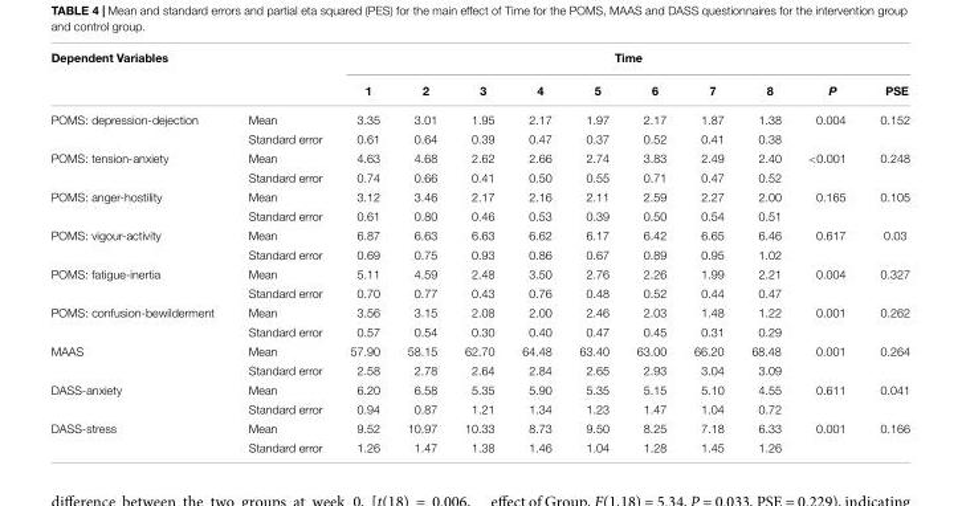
<table><thead><tr><td colspan="2">Dependent Variables</td><td colspan="10">Time</td></tr><tr><td></td><td></td><td>1</td><td>2</td><td>3</td><td>4</td><td>5</td><td>6</td><td>7</td><td>8</td><td>P</td><td>PSE</td></tr></thead><tbody><tr><td rowspan="2">POMS: depression-dejection</td><td>Mean</td><td>3.35</td><td>3.01</td><td>1.95</td><td>2.17</td><td>1.97</td><td>2.17</td><td>1.87</td><td>1.38</td><td>0.004</td><td>0.152</td></tr><tr><td>Standard error</td><td>0.61</td><td>0.64</td><td>0.39</td><td>0.47</td><td>0.37</td><td>0.52</td><td>0.41</td><td>0.38</td><td></td><td></td></tr><tr><td rowspan="2">POMS: tension-anxiety</td><td>Mean</td><td>4.63</td><td>4.68</td><td>2.62</td><td>2.66</td><td>2.74</td><td>3.83</td><td>2.49</td><td>2.40</td><td>&lt;0.001</td><td>0.248</td></tr><tr><td>Standard error</td><td>0.74</td><td>0.66</td><td>0.41</td><td>0.50</td><td>0.55</td><td>0.71</td><td>0.47</td><td>0.52</td><td></td><td></td></tr><tr><td rowspan="2">POMS: anger-hostility</td><td>Mean</td><td>3.12</td><td>3.46</td><td>2.17</td><td>2.16</td><td>2.11</td><td>2.59</td><td>2.27</td><td>2.00</td><td>0.165</td><td>0.105</td></tr><tr><td>Standard error</td><td>0.61</td><td>0.80</td><td>0.46</td><td>0.53</td><td>0.39</td><td>0.50</td><td>0.54</td><td>0.51</td><td></td><td></td></tr><tr><td rowspan="2">POMS: vigour-activity</td><td>Mean</td><td>6.87</td><td>6.63</td><td>6.63</td><td>6.62</td><td>6.17</td><td>6.42</td><td>6.65</td><td>6.46</td><td>0.617</td><td>0.03</td></tr><tr><td>Standard error</td><td>0.69</td><td>0.75</td><td>0.93</td><td>0.86</td><td>0.67</td><td>0.89</td><td>0.95</td><td>1.02</td><td></td><td></td></tr><tr><td rowspan="2">POMS: fatigue-inertia</td><td>Mean</td><td>5.11</td><td>4.59</td><td>2.48</td><td>3.50</td><td>2.76</td><td>2.26</td><td>1.99</td><td>2.21</td><td>0.004</td><td>0.327</td></tr><tr><td>Standard error</td><td>0.70</td><td>0.77</td><td>0.43</td><td>0.76</td><td>0.48</td><td>0.52</td><td>0.44</td><td>0.47</td><td></td><td></td></tr><tr><td rowspan="2">POMS: confusion-bewilderment</td><td>Mean</td><td>3.56</td><td>3.15</td><td>2.08</td><td>2.00</td><td>2.46</td><td>2.03</td><td>1.48</td><td>1.22</td><td>0.001</td><td>0.262</td></tr><tr><td>Standard error</td><td>0.57</td><td>0.54</td><td>0.30</td><td>0.40</td><td>0.47</td><td>0.45</td><td>0.31</td><td>0.29</td><td></td><td></td></tr><tr><td rowspan="2">MAAS</td><td>Mean</td><td>57.90</td><td>58.15</td><td>62.70</td><td>64.48</td><td>63.40</td><td>63.00</td><td>66.20</td><td>68.48</td><td>0.001</td><td>0.264</td></tr><tr><td>Standard error</td><td>2.58</td><td>2.78</td><td>2.64</td><td>2.84</td><td>2.65</td><td>2.93</td><td>3.04</td><td>3.09</td><td></td><td></td></tr><tr><td rowspan="2">DASS-anxiety</td><td>Mean</td><td>6.20</td><td>6.58</td><td>5.35</td><td>5.90</td><td>5.35</td><td>5.15</td><td>5.10</td><td>4.55</td><td>0.611</td><td>0.041</td></tr><tr><td>Standard error</td><td>0.94</td><td>0.87</td><td>1.21</td><td>1.34</td><td>1.23</td><td>1.47</td><td>1.04</td><td>0.72</td><td></td><td></td></tr><tr><td rowspan="2">DASS-stress</td><td>Mean</td><td>9.52</td><td>10.97</td><td>10.33</td><td>8.73</td><td>9.50</td><td>8.25</td><td>7.18</td><td>6.33</td><td>0.001</td><td>0.166</td></tr><tr><td>Standard error</td><td>1.26</td><td>1.47</td><td>1.38</td><td>1.46</td><td>1.04</td><td>1.28</td><td>1.45</td><td>1.26</td><td></td><td></td></tr></tbody></table>